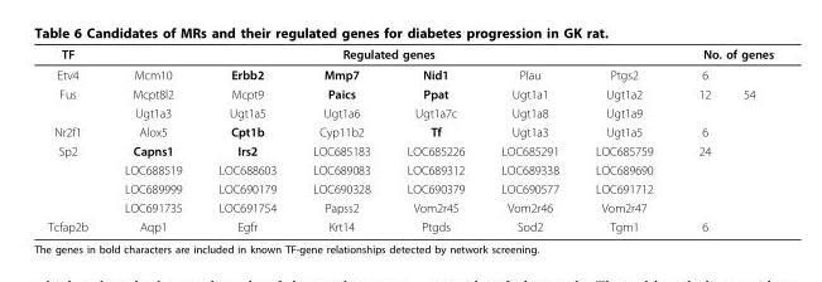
<table><thead><tr><td rowspan="2">TF Etv4</td><td colspan="6">Regulated genes</td><td colspan="2">No. of genes</td></tr><tr><td>Mcm10</td><td>Erbb2</td><td>Mmp7</td><td>Nid1</td><td>Plau</td><td>Ptgs2</td><td>6</td><td></td></tr></thead><tbody><tr><td rowspan="2">Fus</td><td>Mcpt8l2</td><td>Mcpt9</td><td>Paics</td><td>Ppat</td><td>Ugt1a1</td><td>Ugt1a2</td><td>12</td><td>54</td></tr><tr><td>Ugt1a3</td><td>Ugt1a5</td><td>Ugt1a6</td><td>Ugt1a7c</td><td>Ugt1a8</td><td>Ugt1a9</td><td></td><td></td></tr><tr><td>Nr2f1</td><td>Alox5</td><td>Cpt1b</td><td>Cyp11b2</td><td>Tf</td><td>Ugt1a3</td><td>Ugt1a5</td><td>6</td><td></td></tr><tr><td rowspan="4">Sp2</td><td>Capns1</td><td>Irs2</td><td>LOC685183</td><td>LOC685226</td><td>LOC685291</td><td>LOC685759</td><td>24</td><td></td></tr><tr><td>LOC688519</td><td>LOC688603</td><td>LOC689083</td><td>LOC689312</td><td>LOC689338</td><td>LOC689690</td><td></td><td></td></tr><tr><td>LOC689999</td><td>LOC690179</td><td>LOC690328</td><td>LOC690379</td><td>LOC690577</td><td>LOC691712</td><td></td><td></td></tr><tr><td>LOC691735</td><td>LOC691754</td><td>Papss2</td><td>Vom2r45</td><td>Vom2r46</td><td>Vom2r47</td><td></td><td></td></tr><tr><td>Tcfap2b</td><td>Aqp1</td><td>Egfr</td><td>Krt14</td><td>Ptgds</td><td>Sod2</td><td>Tgm1</td><td>6</td><td></td></tr></tbody></table>